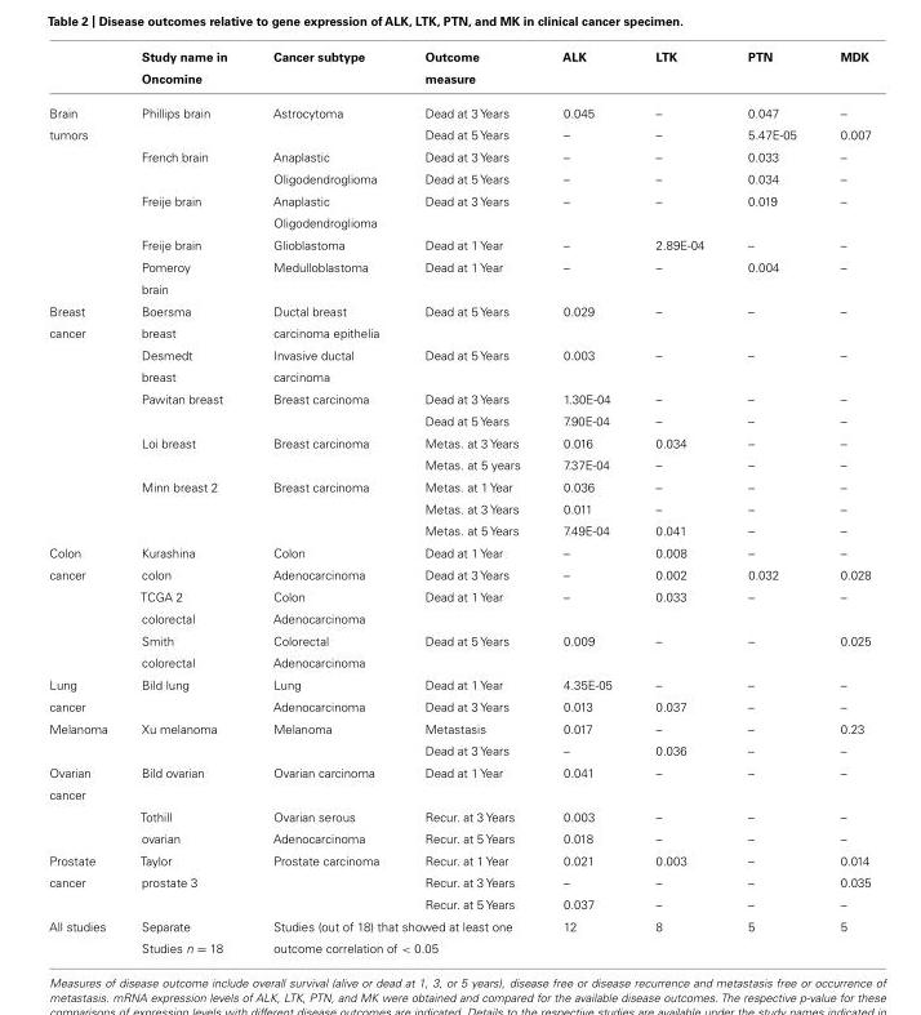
<table><thead><tr><td></td><td>Study name in Oncomine</td><td>Cancer subtype</td><td>Outcome measure</td><td>ALK</td><td>LTK</td><td>PTN</td><td>MDK</td></tr></thead><tbody><tr><td rowspan="5">Brain tumors</td><td>Phillips brain</td><td>Astrocytoma</td><td>Dead at 3 Years Dead at 5 Years</td><td>0.045 –</td><td>– –</td><td>0.047 5.47E-05</td><td>– 0.007</td></tr><tr><td>French brain</td><td>Anaplastic Oligodendroglioma</td><td>Dead at 3 Years Dead at 5 Years</td><td>– –</td><td>– –</td><td>0.033 0.034</td><td>– –</td></tr><tr><td>Freije brain</td><td>Anaplastic Oligodendroglioma</td><td>Dead at 3 Years</td><td>–</td><td>–</td><td>0.019</td><td>–</td></tr><tr><td>Freije brain</td><td>Glioblastoma</td><td>Dead at 1 Year</td><td>–</td><td>2.89E-04</td><td>–</td><td>–</td></tr><tr><td>Pomeroy brain</td><td>Medulloblastoma</td><td>Dead at 1 Year</td><td>–</td><td>–</td><td>0.004</td><td>–</td></tr><tr><td rowspan="5">Breast cancer</td><td>Boersma breast</td><td>Ductal breast carcinoma epithelia</td><td>Dead at 5 Years</td><td>0.029</td><td>–</td><td>–</td><td>–</td></tr><tr><td>Desmedt breast</td><td>Invasive ductal carcinoma</td><td>Dead at 5 Years</td><td>0.003</td><td>–</td><td>–</td><td>–</td></tr><tr><td>Pawitan breast</td><td>Breast carcinoma</td><td>Dead at 3 Years Dead at 5 Years</td><td>1.30E-04 7.90E-04</td><td>– –</td><td>– –</td><td>– –</td></tr><tr><td>Loi breast</td><td>Breast carcinoma</td><td>Metas. at 3 Years Metas. at 5 years</td><td>0.016 7.37E-04</td><td>0.034 –</td><td>– –</td><td>– –</td></tr><tr><td>Minn breast 2</td><td>Breast carcinoma</td><td>Metas. at 1 Year Metas. at 3 Years Metas. at 5 Years</td><td>0.036 0.011 7.49E-04</td><td>– – 0.041</td><td>– – –</td><td>– – –</td></tr><tr><td rowspan="3">Colon cancer</td><td>Kurashina colon</td><td>Colon Adenocarcinoma</td><td>Dead at 1 Year Dead at 3 Years</td><td>– –</td><td>0.008 0.002</td><td>– 0.032</td><td>– 0.028</td></tr><tr><td>TCGA 2 colorectal</td><td>Colon Adenocarcinoma</td><td>Dead at 1 Year</td><td>–</td><td>0.033</td><td>–</td><td>–</td></tr><tr><td>Smith colorectal</td><td>Colorectal Adenocarcinoma</td><td>Dead at 5 Years</td><td>0.009</td><td>–</td><td>–</td><td>0.025</td></tr><tr><td>Lung cancer</td><td>Bild lung</td><td>Lung Adenocarcinoma</td><td>Dead at 1 Year Dead at 3 Years</td><td>4.35E-05 0.013</td><td>– 0.037</td><td>– –</td><td>– –</td></tr><tr><td>Melanoma</td><td>Xu melanoma</td><td>Melanoma</td><td>Metastasis Dead at 3 Years</td><td>0.017 –</td><td>– 0.036</td><td>– –</td><td>0.23 –</td></tr><tr><td rowspan="2">Ovarian cancer</td><td>Bild ovarian</td><td>Ovarian carcinoma</td><td>Dead at 1 Year</td><td>0.041</td><td>–</td><td>–</td><td>–</td></tr><tr><td>Tothill ovarian</td><td>Ovarian serous Adenocarcinoma</td><td>Recur. at 3 Years Recur. at 5 Years</td><td>0.003 0.018</td><td>– –</td><td>– –</td><td>– –</td></tr><tr><td>Prostate cancer</td><td>Taylor prostate 3</td><td>Prostate carcinoma</td><td>Recur. at 1 Year Recur. at 3 Years Recur. at 5 Years</td><td>0.021 – 0.037</td><td>0.003 – –</td><td>– – –</td><td>0.014 0.035 –</td></tr><tr><td>All studies</td><td>Separate Studies n = 18</td><td colspan="2">Studies (out of 18) that showed at least one outcome correlation of &lt; 0.05</td><td>12</td><td>8</td><td>5</td><td>5</td></tr></tbody></table>